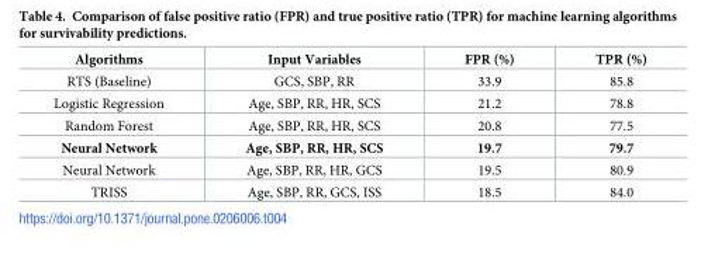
<table><thead><tr><td>Algorithms</td><td>Input Variables</td><td>FPR (%)</td><td>TPR (%)</td></tr></thead><tbody><tr><td>RTS (Baseline)</td><td>GCS, SBP, RR</td><td>33.9</td><td>85.8</td></tr><tr><td>Logistic Regression</td><td>Age, SBP, RR, HR, SCS</td><td>21.2</td><td>78.8</td></tr><tr><td>Random Forest</td><td>Age, SBP, RR, HR, SCS</td><td>20.8</td><td>77.5</td></tr><tr><td>Neural Network</td><td>Age, SBP, RR, HR, SCS</td><td>19.7</td><td>79.7</td></tr><tr><td>Neural Network</td><td>Age, SBP, RR, HR, GCS</td><td>19.5</td><td>80.9</td></tr><tr><td>TRISS</td><td>Age, SBP, RR, GCS, ISS</td><td>18.5</td><td>84.0</td></tr></tbody></table>